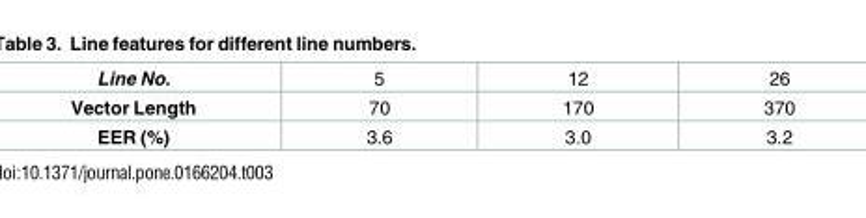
<table><tbody><tr><td>Line No.</td><td>5</td><td>12</td><td>26</td></tr><tr><td>Vector Length</td><td>70</td><td>170</td><td>370</td></tr><tr><td>EER (%)</td><td>3.6</td><td>3.0</td><td>3.2</td></tr></tbody></table>